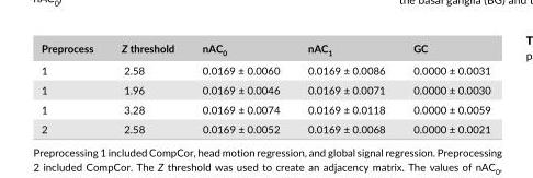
<table><thead><tr><td>Preprocess</td><td>Z threshold</td><td>nAC<sub>0</sub></td><td>nAC<sub>1</sub></td><td>GC</td></tr></thead><tbody><tr><td>1</td><td>2.58</td><td>0.0169 ± 0.0060</td><td>0.0169 ± 0.0086</td><td>0.0000 ± 0.0031</td></tr><tr><td>1</td><td>1.96</td><td>0.0169 ± 0.0046</td><td>0.0169 ± 0.0071</td><td>0.0000 ± 0.0030</td></tr><tr><td>1</td><td>3.28</td><td>0.0169 ± 0.0074</td><td>0.0169 ± 0.0118</td><td>0.0000 ± 0.0059</td></tr><tr><td>2</td><td>2.58</td><td>0.0169 ± 0.0052</td><td>0.0169 ± 0.0068</td><td>0.0000 ± 0.0021</td></tr></tbody></table>